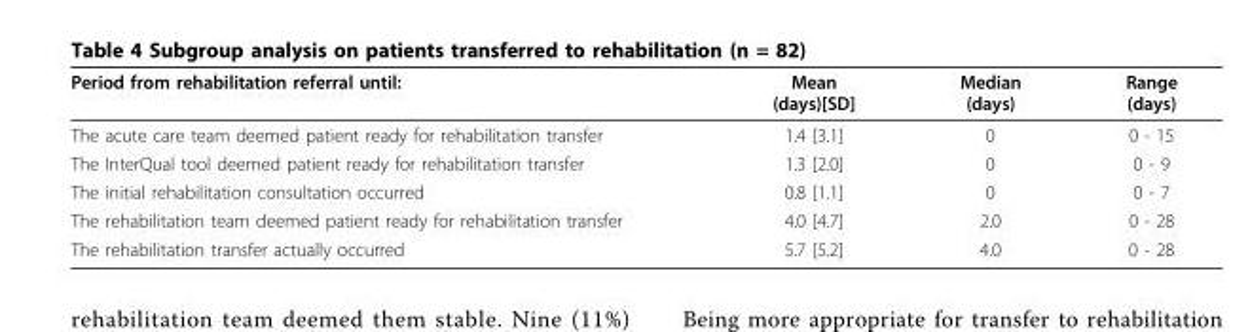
<table><thead><tr><td>Period from rehabilitation referral until:</td><td>Mean (days)[SD]</td><td>Median (days)</td><td>Range (days)</td></tr></thead><tbody><tr><td>The acute care team deemed patient ready for rehabilitation transfer</td><td>1.4 [3.1]</td><td>0</td><td>0 - 15</td></tr><tr><td>The InterQual tool deemed patient ready for rehabilitation transfer</td><td>1.3 [2.0]</td><td>0</td><td>0 - 9</td></tr><tr><td>The initial rehabilitation consultation occurred</td><td>0.8 [1.1]</td><td>0</td><td>0 - 7</td></tr><tr><td>The rehabilitation team deemed patient ready for rehabilitation transfer</td><td>4.0 [4.7]</td><td>2.0</td><td>0 - 28</td></tr><tr><td>The rehabilitation transfer actually occurred</td><td>5.7 [5.2]</td><td>4.0</td><td>0 - 28</td></tr></tbody></table>